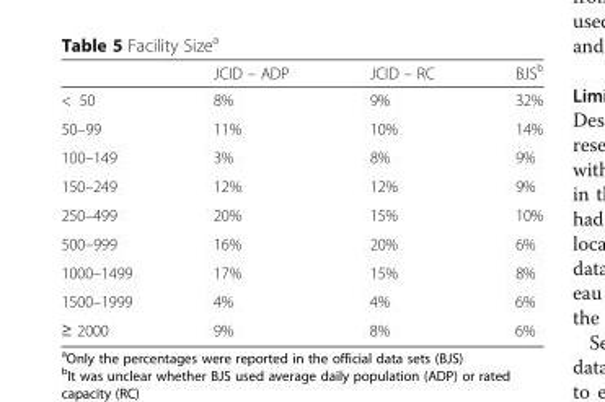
<table><thead><tr><td></td><td>JCID – ADP</td><td>JCID – RC</td><td>BJS<sup>b</sup></td></tr></thead><tbody><tr><td>&lt; 50</td><td>8%</td><td>9%</td><td>32%</td></tr><tr><td>50–99</td><td>11%</td><td>10%</td><td>14%</td></tr><tr><td>100–149</td><td>3%</td><td>8%</td><td>9%</td></tr><tr><td>150–249</td><td>12%</td><td>12%</td><td>9%</td></tr><tr><td>250–499</td><td>20%</td><td>15%</td><td>10%</td></tr><tr><td>500–999</td><td>16%</td><td>20%</td><td>6%</td></tr><tr><td>1000–1499</td><td>17%</td><td>15%</td><td>8%</td></tr><tr><td>1500–1999</td><td>4%</td><td>4%</td><td>6%</td></tr><tr><td>≥ 2000</td><td>9%</td><td>8%</td><td>6%</td></tr></tbody></table>